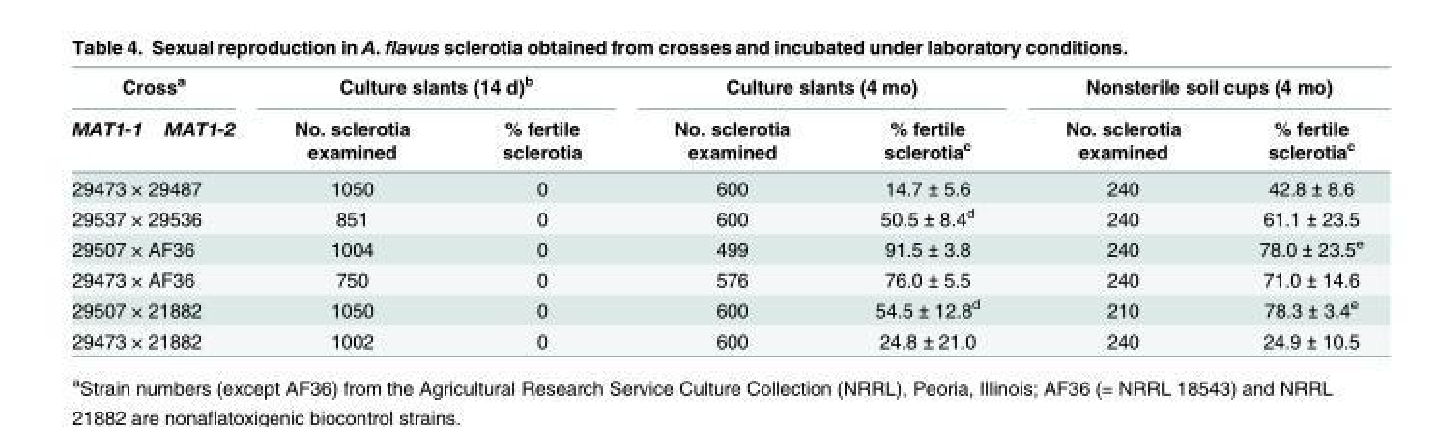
<table><thead><tr><td colspan="2">Cross<sup>a</sup></td><td colspan="2">Culture slants (14 d)<sup>b</sup></td><td colspan="2">Culture slants (4 mo)</td><td colspan="2">Nonsterile soil cups (4 mo)</td></tr><tr><td>MAT1-1</td><td>MAT1-2</td><td>No. sclerotia examined</td><td>% fertile sclerotia</td><td>No. sclerotia examined</td><td>% fertile sclerotia<sup>c</sup></td><td>No. sclerotia examined</td><td>% fertile sclerotia<sup>c</sup></td></tr></thead><tbody><tr><td colspan="2">29473 × 29487</td><td>1050</td><td>0</td><td>600</td><td>14.7 ± 5.6</td><td>240</td><td>42.8 ± 8.6</td></tr><tr><td colspan="2">29537 × 29536</td><td>851</td><td>0</td><td>600</td><td>50.5 ± 8.4<sup>d</sup></td><td>240</td><td>61.1 ± 23.5</td></tr><tr><td colspan="2">29507 × AF36</td><td>1004</td><td>0</td><td>499</td><td>91.5 ± 3.8</td><td>240</td><td>78.0 ± 23.5<sup>e</sup></td></tr><tr><td colspan="2">29473 × AF36</td><td>750</td><td>0</td><td>576</td><td>76.0 ± 5.5</td><td>240</td><td>71.0 ± 14.6</td></tr><tr><td colspan="2">29507 × 21882</td><td>1050</td><td>0</td><td>600</td><td>54.5 ± 12.8<sup>d</sup></td><td>210</td><td>78.3 ± 3.4<sup>e</sup></td></tr><tr><td colspan="2">29473 × 21882</td><td>1002</td><td>0</td><td>600</td><td>24.8 ± 21.0</td><td>240</td><td>24.9 ± 10.5</td></tr></tbody></table>